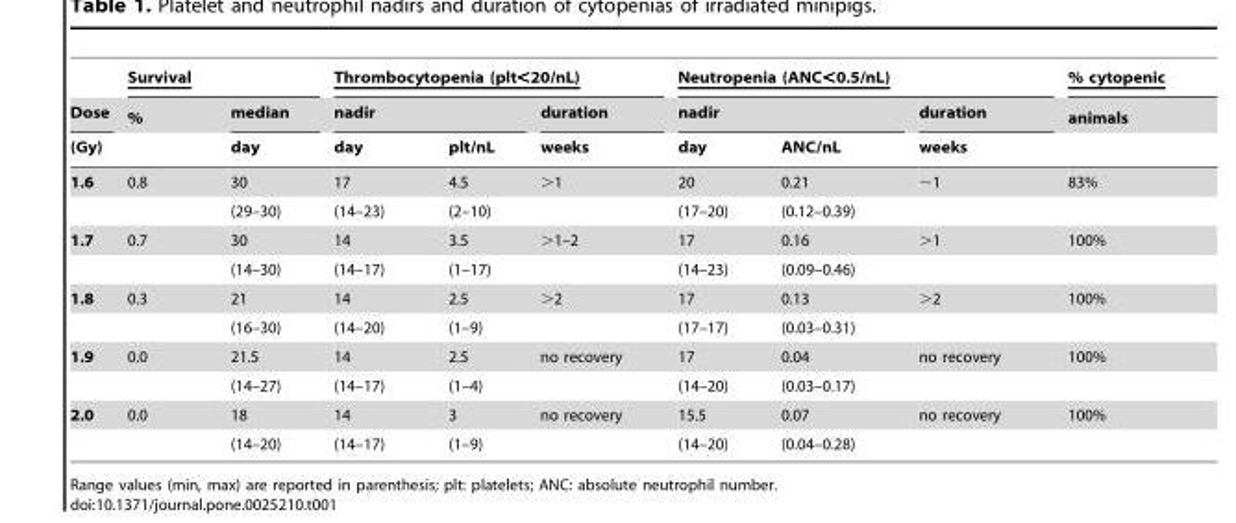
<table><thead><tr><td rowspan="3">Dose (Gy)</td><td colspan="2">Survival</td><td colspan="3">Thrombocytopenia (plt&lt;20/nL)</td><td colspan="3">Neutropenia (ANC&lt;0.5/nL)</td><td rowspan="3">% cytopenic animals</td></tr><tr><td rowspan="2">%</td><td rowspan="2">median day</td><td colspan="2">nadir</td><td rowspan="2">duration weeks</td><td colspan="2">nadir</td><td rowspan="2">duration weeks</td></tr><tr><td>day</td><td>plt/nL</td><td>day</td><td>ANC/nL</td></tr></thead><tbody><tr><td rowspan="2">1.6</td><td>0.8</td><td>30</td><td>17</td><td>4.5</td><td>&gt;1</td><td>20</td><td>0.21</td><td>∼1</td><td>83%</td></tr><tr><td></td><td>(29–30)</td><td>(14–23)</td><td>(2–10)</td><td></td><td>(17–20)</td><td>(0.12–0.39)</td><td></td><td></td></tr><tr><td rowspan="2">1.7</td><td>0.7</td><td>30</td><td>14</td><td>3.5</td><td>&gt;1–2</td><td>17</td><td>0.16</td><td>&gt;1</td><td>100%</td></tr><tr><td></td><td>(14–30)</td><td>(14–17)</td><td>(1–17)</td><td></td><td>(14–23)</td><td>(0.09–0.46)</td><td></td><td></td></tr><tr><td rowspan="2">1.8</td><td>0.3</td><td>21</td><td>14</td><td>2.5</td><td>&gt;2</td><td>17</td><td>0.13</td><td>&gt;2</td><td>100%</td></tr><tr><td></td><td>(16–30)</td><td>(14–20)</td><td>(1–9)</td><td></td><td>(17–17)</td><td>(0.03–0.31)</td><td></td><td></td></tr><tr><td rowspan="2">1.9</td><td>0.0</td><td>21.5</td><td>14</td><td>2.5</td><td>no recovery</td><td>17</td><td>0.04</td><td>no recovery</td><td>100%</td></tr><tr><td></td><td>(14–27)</td><td>(14–17)</td><td>(1–4)</td><td></td><td>(14–20)</td><td>(0.03–0.17)</td><td></td><td></td></tr><tr><td rowspan="2">2.0</td><td>0.0</td><td>18</td><td>14</td><td>3</td><td>no recovery</td><td>15.5</td><td>0.07</td><td>no recovery</td><td>100%</td></tr><tr><td></td><td>(14–20)</td><td>(14–17)</td><td>(1–9)</td><td></td><td>(14–20)</td><td>(0.04–0.28)</td><td></td><td></td></tr></tbody></table>